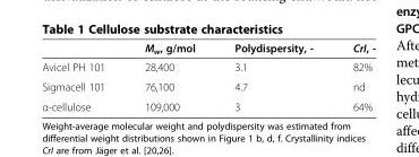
<table><thead><tr><td></td><td>M<sub>w</sub>, g/mol</td><td>Polydispersity, -</td><td>CrI, -</td></tr></thead><tbody><tr><td>Avicel PH 101</td><td>28,400</td><td>3.1</td><td>82%</td></tr><tr><td>Sigmacell 101</td><td>76,100</td><td>4.7</td><td>nd</td></tr><tr><td>α-cellulose</td><td>109,000</td><td>3</td><td>64%</td></tr></tbody></table>